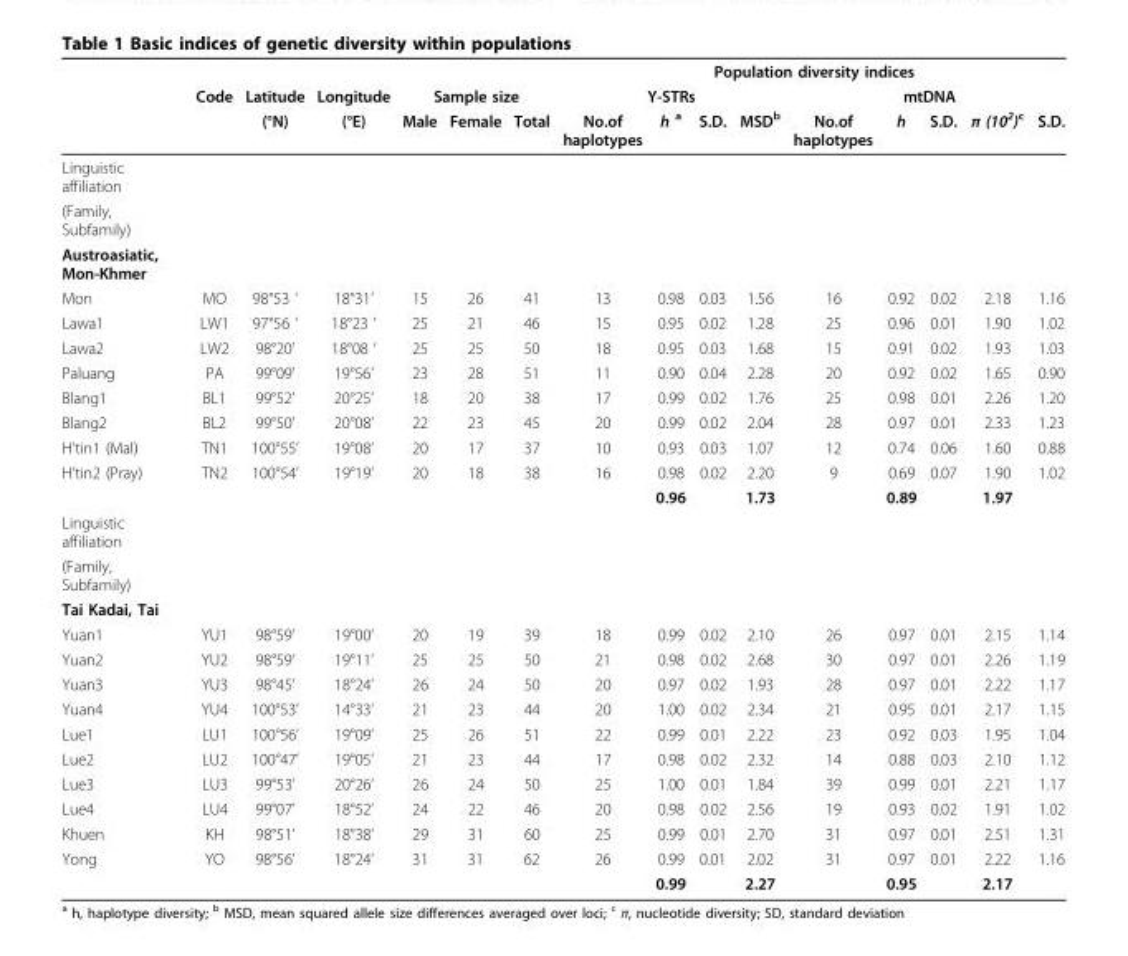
<table><thead><tr><td rowspan="3"></td><td rowspan="3">Code</td><td rowspan="3">Latitude (°N)</td><td rowspan="3">Longitude (°E)</td><td></td><td></td><td></td><td colspan="9">Population diversity indices</td></tr><tr><td colspan="3">Sample size</td><td colspan="4">Y-STRs</td><td colspan="5">mtDNA</td></tr><tr><td>Male</td><td>Female</td><td>Total</td><td>No.of haplotypes</td><td>h <sup>a</sup></td><td>S.D.</td><td>MSD<sup>b</sup></td><td>No.of haplotypes</td><td>h</td><td>S.D.</td><td>π (10<sup>2</sup>)<sup>c</sup></td><td>S.D.</td></tr></thead><tbody><tr><td colspan="16">Linguistic affiliation</td></tr><tr><td colspan="16">(Family, Subfamily)</td></tr><tr><td colspan="16">Austroasiatic, Mon-Khmer</td></tr><tr><td>Mon</td><td>MO</td><td>98°53 ‘</td><td>18°31’</td><td>15</td><td>26</td><td>41</td><td>13</td><td>0.98</td><td>0.03</td><td>1.56</td><td>16</td><td>0.92</td><td>0.02</td><td>2.18</td><td>1.16</td></tr><tr><td>Lawa1</td><td>LW1</td><td>97°56 ‘</td><td>18°23 ‘</td><td>25</td><td>21</td><td>46</td><td>15</td><td>0.95</td><td>0.02</td><td>1.28</td><td>25</td><td>0.96</td><td>0.01</td><td>1.90</td><td>1.02</td></tr><tr><td>Lawa2</td><td>LW2</td><td>98°20’</td><td>18°08 ‘</td><td>25</td><td>25</td><td>50</td><td>18</td><td>0.95</td><td>0.03</td><td>1.68</td><td>15</td><td>0.91</td><td>0.02</td><td>1.93</td><td>1.03</td></tr><tr><td>Paluang</td><td>PA</td><td>99°09’</td><td>19°56’</td><td>23</td><td>28</td><td>51</td><td>11</td><td>0.90</td><td>0.04</td><td>2.28</td><td>20</td><td>0.92</td><td>0.02</td><td>1.65</td><td>0.90</td></tr><tr><td>Blang1</td><td>BL1</td><td>99°52’</td><td>20°25’</td><td>18</td><td>20</td><td>38</td><td>17</td><td>0.99</td><td>0.02</td><td>1.76</td><td>25</td><td>0.98</td><td>0.01</td><td>2.26</td><td>1.20</td></tr><tr><td>Blang2</td><td>BL2</td><td>99°50’</td><td>20°08’</td><td>22</td><td>23</td><td>45</td><td>20</td><td>0.99</td><td>0.02</td><td>2.04</td><td>28</td><td>0.97</td><td>0.01</td><td>2.33</td><td>1.23</td></tr><tr><td>H’tin1 (Mal)</td><td>TN1</td><td>100°55’</td><td>19°08’</td><td>20</td><td>17</td><td>37</td><td>10</td><td>0.93</td><td>0.03</td><td>1.07</td><td>12</td><td>0.74</td><td>0.06</td><td>1.60</td><td>0.88</td></tr><tr><td rowspan="2">H’tin2 (Pray)</td><td>TN2</td><td>100°54’</td><td>19°19’</td><td>20</td><td>18</td><td>38</td><td>16</td><td>0.98</td><td>0.02</td><td>2.20</td><td>9</td><td>0.69</td><td>0.07</td><td>1.90</td><td>1.02</td></tr><tr><td></td><td></td><td></td><td></td><td></td><td></td><td></td><td>0.96</td><td></td><td>1.73</td><td></td><td>0.89</td><td></td><td>1.97</td><td></td></tr><tr><td colspan="16">Linguistic affiliation</td></tr><tr><td colspan="16">(Family, Subfamily)</td></tr><tr><td colspan="16">Tai Kadai, Tai</td></tr><tr><td>Yuan1</td><td>YU1</td><td>98°59’</td><td>19°00’</td><td>20</td><td>19</td><td>39</td><td>18</td><td>0.99</td><td>0.02</td><td>2.10</td><td>26</td><td>0.97</td><td>0.01</td><td>2.15</td><td>1.14</td></tr><tr><td>Yuan2</td><td>YU2</td><td>98°59’</td><td>19°11’</td><td>25</td><td>25</td><td>50</td><td>21</td><td>0.98</td><td>0.02</td><td>2.68</td><td>30</td><td>0.97</td><td>0.01</td><td>2.26</td><td>1.19</td></tr><tr><td>Yuan3</td><td>YU3</td><td>98°45’</td><td>18°24’</td><td>26</td><td>24</td><td>50</td><td>20</td><td>0.97</td><td>0.02</td><td>1.93</td><td>28</td><td>0.97</td><td>0.01</td><td>2.22</td><td>1.17</td></tr><tr><td>Yuan4</td><td>YU4</td><td>100°53’</td><td>14°33’</td><td>21</td><td>23</td><td>44</td><td>20</td><td>1.00</td><td>0.02</td><td>2.34</td><td>21</td><td>0.95</td><td>0.01</td><td>2.17</td><td>1.15</td></tr><tr><td>Lue1</td><td>LU1</td><td>100°56’</td><td>19°09’</td><td>25</td><td>26</td><td>51</td><td>22</td><td>0.99</td><td>0.01</td><td>2.22</td><td>23</td><td>0.92</td><td>0.03</td><td>1.95</td><td>1.04</td></tr><tr><td>Lue2</td><td>LU2</td><td>100°47’</td><td>19°05’</td><td>21</td><td>23</td><td>44</td><td>17</td><td>0.98</td><td>0.02</td><td>2.32</td><td>14</td><td>0.88</td><td>0.03</td><td>2.10</td><td>1.12</td></tr><tr><td>Lue3</td><td>LU3</td><td>99°53’</td><td>20°26’</td><td>26</td><td>24</td><td>50</td><td>25</td><td>1.00</td><td>0.01</td><td>1.84</td><td>39</td><td>0.99</td><td>0.01</td><td>2.21</td><td>1.17</td></tr><tr><td>Lue4</td><td>LU4</td><td>99°07’</td><td>18°52’</td><td>24</td><td>22</td><td>46</td><td>20</td><td>0.98</td><td>0.02</td><td>2.56</td><td>19</td><td>0.93</td><td>0.02</td><td>1.91</td><td>1.02</td></tr><tr><td>Khuen</td><td>KH</td><td>98°51’</td><td>18°38’</td><td>29</td><td>31</td><td>60</td><td>25</td><td>0.99</td><td>0.01</td><td>2.70</td><td>31</td><td>0.97</td><td>0.01</td><td>2.51</td><td>1.31</td></tr><tr><td rowspan="2">Yong</td><td>YO</td><td>98°56’</td><td>18°24’</td><td>31</td><td>31</td><td>62</td><td>26</td><td>0.99</td><td>0.01</td><td>2.02</td><td>31</td><td>0.97</td><td>0.01</td><td>2.22</td><td>1.16</td></tr><tr><td></td><td></td><td></td><td></td><td></td><td></td><td></td><td>0.99</td><td></td><td>2.27</td><td></td><td>0.95</td><td></td><td>2.17</td><td></td></tr></tbody></table>